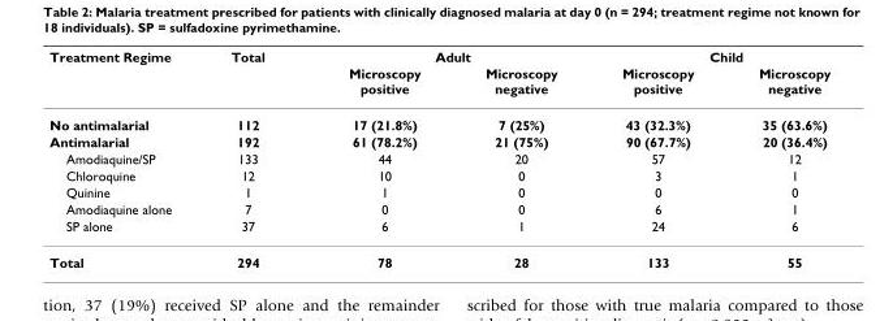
<table><thead><tr><td rowspan="2">Treatment Regime</td><td rowspan="2">Total</td><td colspan="2">Adult</td><td colspan="2">Child</td></tr><tr><td>Microscopy positive</td><td>Microscopy negative</td><td>Microscopy positive</td><td>Microscopy negative</td></tr></thead><tbody><tr><td>No antimalarial</td><td>112</td><td>17 (21.8%)</td><td>7 (25%)</td><td>43 (32.3%)</td><td>35 (63.6%)</td></tr><tr><td>Antimalarial</td><td>192</td><td>61 (78.2%)</td><td>21 (75%)</td><td>90 (67.7%)</td><td>20 (36.4%)</td></tr><tr><td>Amodiaquine/SP</td><td>133</td><td>44</td><td>20</td><td>57</td><td>12</td></tr><tr><td>Chloroquine</td><td>12</td><td>10</td><td>0</td><td>3</td><td>1</td></tr><tr><td>Quinine</td><td>1</td><td>1</td><td>0</td><td>0</td><td>0</td></tr><tr><td>Amodiaquine alone</td><td>7</td><td>0</td><td>0</td><td>6</td><td>1</td></tr><tr><td>SP alone</td><td>37</td><td>6</td><td>1</td><td>24</td><td>6</td></tr><tr><td>Total</td><td>294</td><td>78</td><td>28</td><td>133</td><td>55</td></tr></tbody></table>